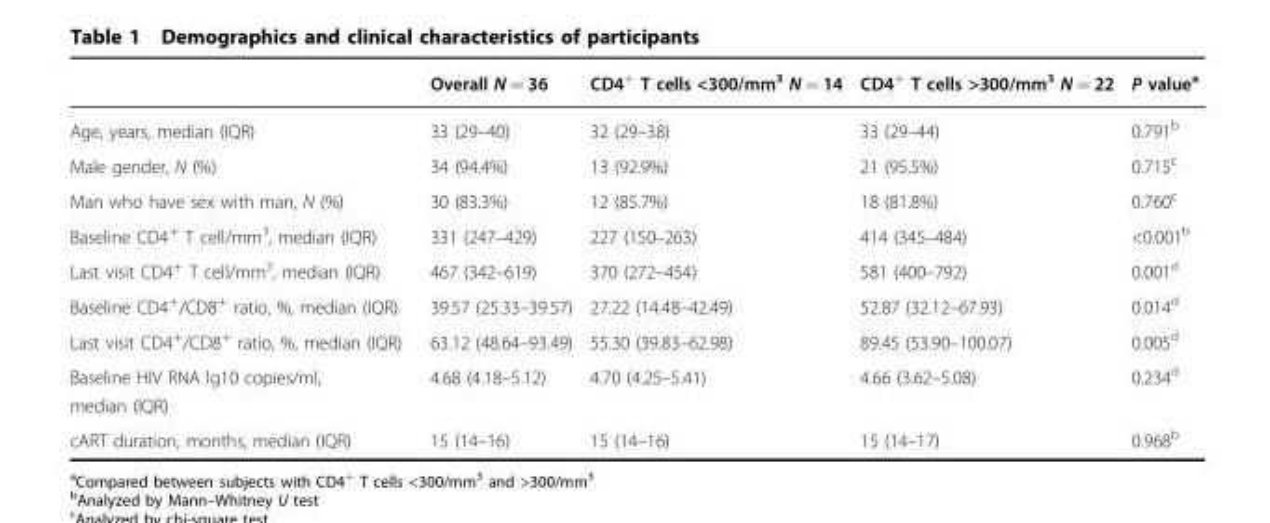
<table><thead><tr><td></td><td>Overall N = 36</td><td>CD4<sup>+</sup> T cells &lt;300/mm<sup>3</sup> N = 14</td><td>CD4<sup>+</sup> T cells &gt;300/mm<sup>3</sup> N = 22</td><td>P value<sup>a</sup></td></tr></thead><tbody><tr><td>Age, years, median (IQR)</td><td>33 (29–40)</td><td>32 (29–38)</td><td>33 (29–44)</td><td>0.791<sup>b</sup></td></tr><tr><td>Male gender, N (%)</td><td>34 (94.4%)</td><td>13 (92.9%)</td><td>21 (95.5%)</td><td>0.715<sup>c</sup></td></tr><tr><td>Man who have sex with man, N (%)</td><td>30 (83.3%)</td><td>12 (85.7%)</td><td>18 (81.8%)</td><td>0.760<sup>c</sup></td></tr><tr><td>Baseline CD4<sup>+</sup> T cell/mm<sup>3</sup>, median (IQR)</td><td>331 (247–429)</td><td>227 (150–263)</td><td>414 (345–484)</td><td>&lt;0.001<sup>b</sup></td></tr><tr><td>Last visit CD4<sup>+</sup> T cell/mm<sup>3</sup>, median (IQR)</td><td>467 (342–619)</td><td>370 (272–454)</td><td>581 (400–792)</td><td>0.001<sup>d</sup></td></tr><tr><td>Baseline CD4<sup>+</sup>/CD8<sup>+</sup> ratio, %, median (IQR)</td><td>39.57 (25.33–39.57)</td><td>27.22 (14.48–42.49)</td><td>52.87 (32.12–67.93)</td><td>0.014<sup>d</sup></td></tr><tr><td>Last visit CD4<sup>+</sup>/CD8<sup>+</sup> ratio, %, median (IQR)</td><td>63.12 (48.64–93.49)</td><td>55.30 (39.83–62.98)</td><td>89.45 (53.90–100.07)</td><td>0.005<sup>d</sup></td></tr><tr><td>Baseline HIV RNA lg10 copies/ml, median (IQR)</td><td>4.68 (4.18–5.12)</td><td>4.70 (4.25–5.41)</td><td>4.66 (3.62–5.08)</td><td>0.234<sup>d</sup></td></tr><tr><td>cART duration, months, median (IQR)</td><td>15 (14–16)</td><td>15 (14–16)</td><td>15 (14–17)</td><td>0.968<sup>b</sup></td></tr></tbody></table>